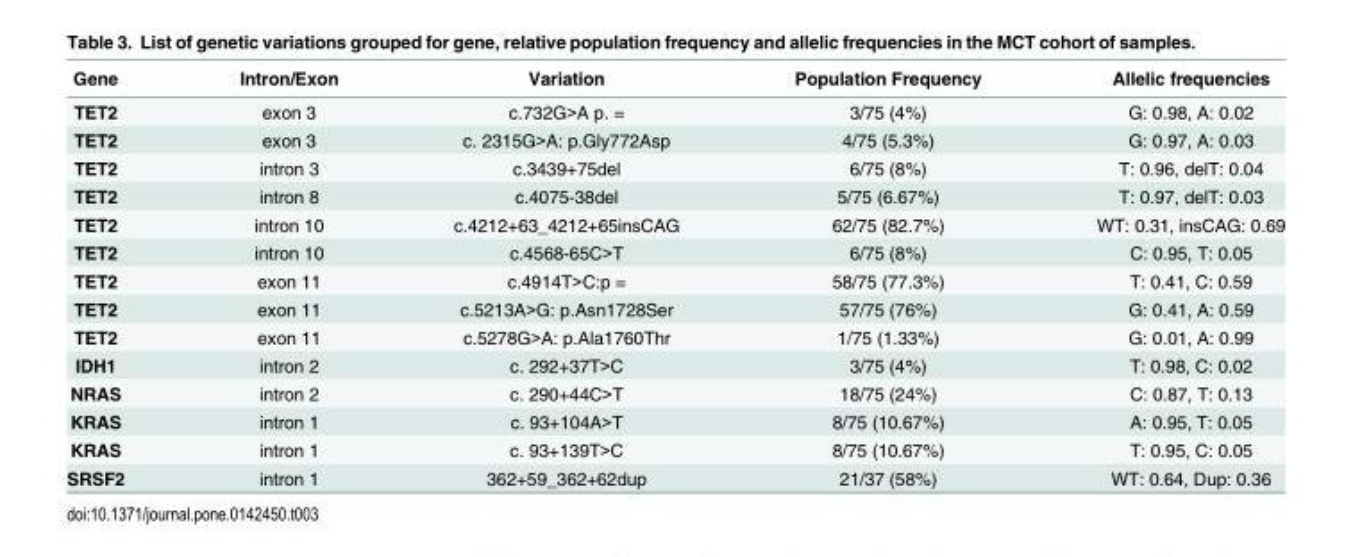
<table><thead><tr><td>Gene</td><td>Intron/Exon</td><td>Variation</td><td>Population Frequency</td><td>Allelic frequencies</td></tr></thead><tbody><tr><td>TET2</td><td>exon 3</td><td>c.732G&gt;A p. =</td><td>3/75 (4%)</td><td>G: 0.98, A: 0.02</td></tr><tr><td>TET2</td><td>exon 3</td><td>c. 2315G&gt;A: p.Gly772Asp</td><td>4/75 (5.3%)</td><td>G: 0.97, A: 0.03</td></tr><tr><td>TET2</td><td>intron 3</td><td>c.3439+75del</td><td>6/75 (8%)</td><td>T: 0.96, delT: 0.04</td></tr><tr><td>TET2</td><td>intron 8</td><td>c.4075-38del</td><td>5/75 (6.67%)</td><td>T: 0.97, delT: 0.03</td></tr><tr><td>TET2</td><td>intron 10</td><td>c.4212+63_4212+65insCAG</td><td>62/75 (82.7%)</td><td>WT: 0.31, insCAG: 0.69</td></tr><tr><td>TET2</td><td>intron 10</td><td>c.4568-65C&gt;T</td><td>6/75 (8%)</td><td>C: 0.95, T: 0.05</td></tr><tr><td>TET2</td><td>exon 11</td><td>c.4914T&gt;C:p =</td><td>58/75 (77.3%)</td><td>T: 0.41, C: 0.59</td></tr><tr><td>TET2</td><td>exon 11</td><td>c.5213A&gt;G: p.Asn1728Ser</td><td>57/75 (76%)</td><td>G: 0.41, A: 0.59</td></tr><tr><td>TET2</td><td>exon 11</td><td>c.5278G&gt;A: p.Ala1760Thr</td><td>1/75 (1.33%)</td><td>G: 0.01, A: 0.99</td></tr><tr><td>IDH1</td><td>intron 2</td><td>c. 292+37T&gt;C</td><td>3/75 (4%)</td><td>T: 0.98, C: 0.02</td></tr><tr><td>NRAS</td><td>intron 2</td><td>c. 290+44C&gt;T</td><td>18/75 (24%)</td><td>C: 0.87, T: 0.13</td></tr><tr><td>KRAS</td><td>intron 1</td><td>c. 93+104A&gt;T</td><td>8/75 (10.67%)</td><td>A: 0.95, T: 0.05</td></tr><tr><td>KRAS</td><td>intron 1</td><td>c. 93+139T&gt;C</td><td>8/75 (10.67%)</td><td>T: 0.95, C: 0.05</td></tr><tr><td>SRSF2</td><td>intron 1</td><td>362+59_362+62dup</td><td>21/37 (58%)</td><td>WT: 0.64, Dup: 0.36</td></tr></tbody></table>